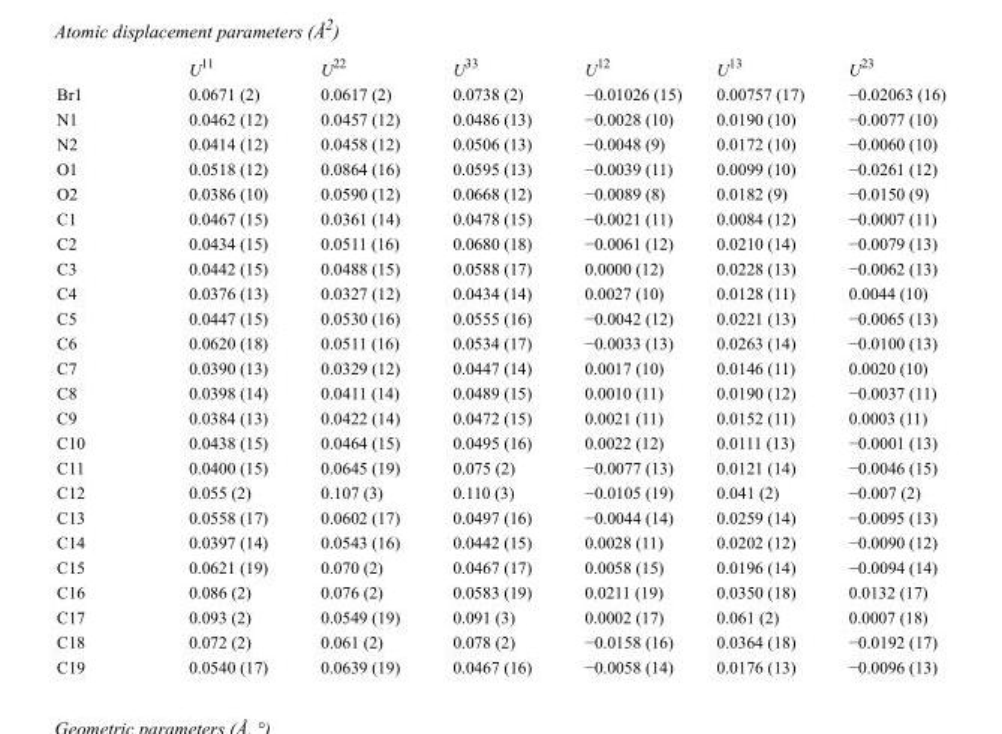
<table><thead><tr><td></td><td>U<sup>11</sup></td><td>U<sup>22</sup></td><td>U<sup>33</sup></td><td>U<sup>12</sup></td><td>U<sup>13</sup></td><td>U<sup>23</sup></td></tr></thead><tbody><tr><td>Br1</td><td>0.0671 (2)</td><td>0.0617 (2)</td><td>0.0738 (2)</td><td>−0.01026 (15)</td><td>0.00757 (17)</td><td>−0.02063 (16)</td></tr><tr><td>N1</td><td>0.0462 (12)</td><td>0.0457 (12)</td><td>0.0486 (13)</td><td>−0.0028 (10)</td><td>0.0190 (10)</td><td>−0.0077 (10)</td></tr><tr><td>N2</td><td>0.0414 (12)</td><td>0.0458 (12)</td><td>0.0506 (13)</td><td>−0.0048 (9)</td><td>0.0172 (10)</td><td>−0.0060 (10)</td></tr><tr><td>O1</td><td>0.0518 (12)</td><td>0.0864 (16)</td><td>0.0595 (13)</td><td>−0.0039 (11)</td><td>0.0099 (10)</td><td>−0.0261 (12)</td></tr><tr><td>O2</td><td>0.0386 (10)</td><td>0.0590 (12)</td><td>0.0668 (12)</td><td>−0.0089 (8)</td><td>0.0182 (9)</td><td>−0.0150 (9)</td></tr><tr><td>C1</td><td>0.0467 (15)</td><td>0.0361 (14)</td><td>0.0478 (15)</td><td>−0.0021 (11)</td><td>0.0084 (12)</td><td>−0.0007 (11)</td></tr><tr><td>C2</td><td>0.0434 (15)</td><td>0.0511 (16)</td><td>0.0680 (18)</td><td>−0.0061 (12)</td><td>0.0210 (14)</td><td>−0.0079 (13)</td></tr><tr><td>C3</td><td>0.0442 (15)</td><td>0.0488 (15)</td><td>0.0588 (17)</td><td>0.0000 (12)</td><td>0.0228 (13)</td><td>−0.0062 (13)</td></tr><tr><td>C4</td><td>0.0376 (13)</td><td>0.0327 (12)</td><td>0.0434 (14)</td><td>0.0027 (10)</td><td>0.0128 (11)</td><td>0.0044 (10)</td></tr><tr><td>C5</td><td>0.0447 (15)</td><td>0.0530 (16)</td><td>0.0555 (16)</td><td>−0.0042 (12)</td><td>0.0221 (13)</td><td>−0.0065 (13)</td></tr><tr><td>C6</td><td>0.0620 (18)</td><td>0.0511 (16)</td><td>0.0534 (17)</td><td>−0.0033 (13)</td><td>0.0263 (14)</td><td>−0.0100 (13)</td></tr><tr><td>C7</td><td>0.0390 (13)</td><td>0.0329 (12)</td><td>0.0447 (14)</td><td>0.0017 (10)</td><td>0.0146 (11)</td><td>0.0020 (10)</td></tr><tr><td>C8</td><td>0.0398 (14)</td><td>0.0411 (14)</td><td>0.0489 (15)</td><td>0.0010 (11)</td><td>0.0190 (12)</td><td>−0.0037 (11)</td></tr><tr><td>C9</td><td>0.0384 (13)</td><td>0.0422 (14)</td><td>0.0472 (15)</td><td>0.0021 (11)</td><td>0.0152 (11)</td><td>0.0003 (11)</td></tr><tr><td>C10</td><td>0.0438 (15)</td><td>0.0464 (15)</td><td>0.0495 (16)</td><td>0.0022 (12)</td><td>0.0111 (13)</td><td>−0.0001 (13)</td></tr><tr><td>C11</td><td>0.0400 (15)</td><td>0.0645 (19)</td><td>0.075 (2)</td><td>−0.0077 (13)</td><td>0.0121 (14)</td><td>−0.0046 (15)</td></tr><tr><td>C12</td><td>0.055 (2)</td><td>0.107 (3)</td><td>0.110 (3)</td><td>−0.0105 (19)</td><td>0.041 (2)</td><td>−0.007 (2)</td></tr><tr><td>C13</td><td>0.0558 (17)</td><td>0.0602 (17)</td><td>0.0497 (16)</td><td>−0.0044 (14)</td><td>0.0259 (14)</td><td>−0.0095 (13)</td></tr><tr><td>C14</td><td>0.0397 (14)</td><td>0.0543 (16)</td><td>0.0442 (15)</td><td>0.0028 (11)</td><td>0.0202 (12)</td><td>−0.0090 (12)</td></tr><tr><td>C15</td><td>0.0621 (19)</td><td>0.070 (2)</td><td>0.0467 (17)</td><td>0.0058 (15)</td><td>0.0196 (14)</td><td>−0.0094 (14)</td></tr><tr><td>C16</td><td>0.086 (2)</td><td>0.076 (2)</td><td>0.0583 (19)</td><td>0.0211 (19)</td><td>0.0350 (18)</td><td>0.0132 (17)</td></tr><tr><td>C17</td><td>0.093 (2)</td><td>0.0549 (19)</td><td>0.091 (3)</td><td>0.0002 (17)</td><td>0.061 (2)</td><td>0.0007 (18)</td></tr><tr><td>C18</td><td>0.072 (2)</td><td>0.061 (2)</td><td>0.078 (2)</td><td>−0.0158 (16)</td><td>0.0364 (18)</td><td>−0.0192 (17)</td></tr><tr><td>C19</td><td>0.0540 (17)</td><td>0.0639 (19)</td><td>0.0467 (16)</td><td>−0.0058 (14)</td><td>0.0176 (13)</td><td>−0.0096 (13)</td></tr></tbody></table>